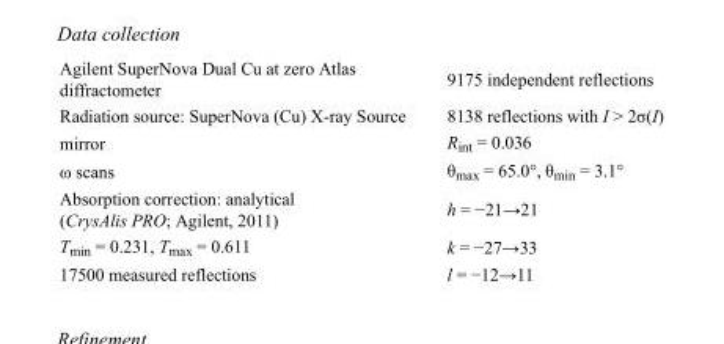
<table><tbody><tr><td>Agilent SuperNova Dual Cu at zero Atlas diffractometer</td><td>9175 independent reflections</td></tr><tr><td>Radiation source: SuperNova (Cu) X-ray Source</td><td>8138 reflections with I &gt; 2σ(I)</td></tr><tr><td>mirror</td><td>R<sub>int</sub> = 0.036</td></tr><tr><td>ω scans</td><td>θ<sub>max</sub> = 65.0°, θ<sub>min</sub> = 3.1°</td></tr><tr><td>Absorption correction: analytical (CrysAlis PRO; Agilent, 2011)</td><td>h = −21→21</td></tr><tr><td>T<sub>min</sub> = 0.231, T<sub>max</sub> = 0.611</td><td>k = −27→33</td></tr><tr><td>17500 measured reflections</td><td>l = −12→11</td></tr></tbody></table>